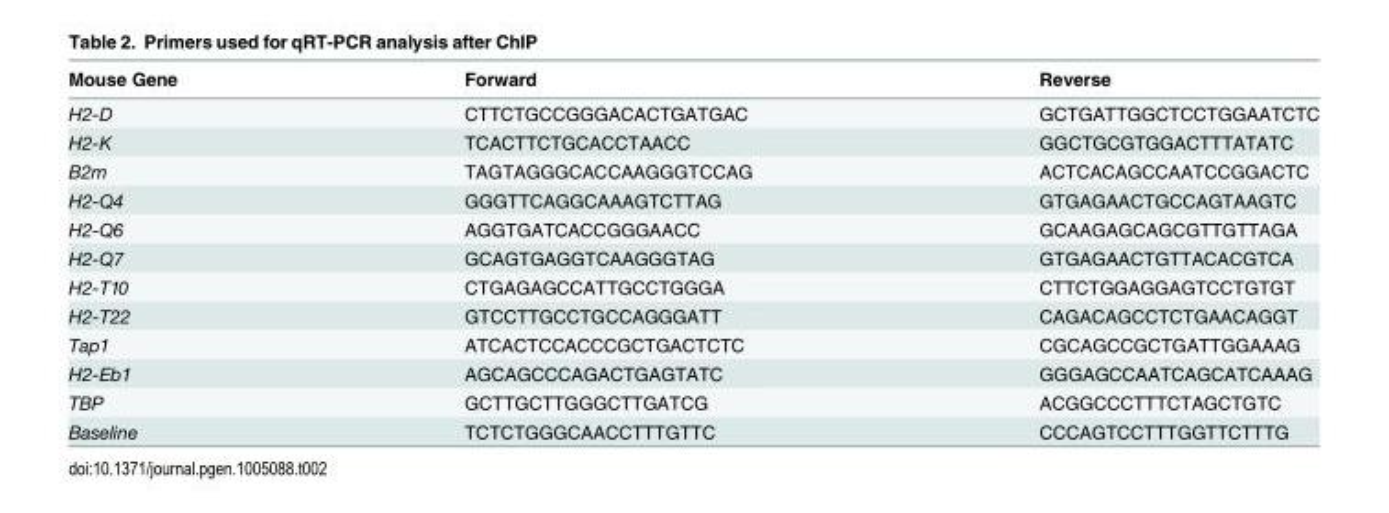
<table><thead><tr><td>Mouse Gene</td><td>Forward</td><td>Reverse</td></tr></thead><tbody><tr><td>H2-D</td><td>CTTCTGCCGGGACACTGATGAC</td><td>GCTGATTGGCTCCTGGAATCTC</td></tr><tr><td>H2-K</td><td>TCACTTCTGCACCTAACC</td><td>GGCTGCGTGGACTTTATATC</td></tr><tr><td>B2m</td><td>TAGTAGGGCACCAAGGGTCCAG</td><td>ACTCACAGCCAATCCGGACTC</td></tr><tr><td>H2-Q4</td><td>GGGTTCAGGCAAAGTCTTAG</td><td>GTGAGAACTGCCAGTAAGTC</td></tr><tr><td>H2-Q6</td><td>AGGTGATCACCGGGAACC</td><td>GCAAGAGCAGCGTTGTTAGA</td></tr><tr><td>H2-Q7</td><td>GCAGTGAGGTCAAGGGTAG</td><td>GTGAGAACTGTTACACGTCA</td></tr><tr><td>H2-T10</td><td>CTGAGAGCCATTGCCTGGGA</td><td>CTTCTGGAGGAGTCCTGTGT</td></tr><tr><td>H2-T22</td><td>GTCCTTGCCTGCCAGGGATT</td><td>CAGACAGCCTCTGAACAGGT</td></tr><tr><td>Tap1</td><td>ATCACTCCACCCGCTGACTCTC</td><td>CGCAGCCGCTGATTGGAAAG</td></tr><tr><td>H2-Eb1</td><td>AGCAGCCCAGACTGAGTATC</td><td>GGGAGCCAATCAGCATCAAAG</td></tr><tr><td>TBP</td><td>GCTTGCTTGGGCTTGATCG</td><td>ACGGCCCTTTCTAGCTGTC</td></tr><tr><td>Baseline</td><td>TCTCTGGGCAACCTTTGTTC</td><td>CCCAGTCCTTTGGTTCTTTG</td></tr></tbody></table>